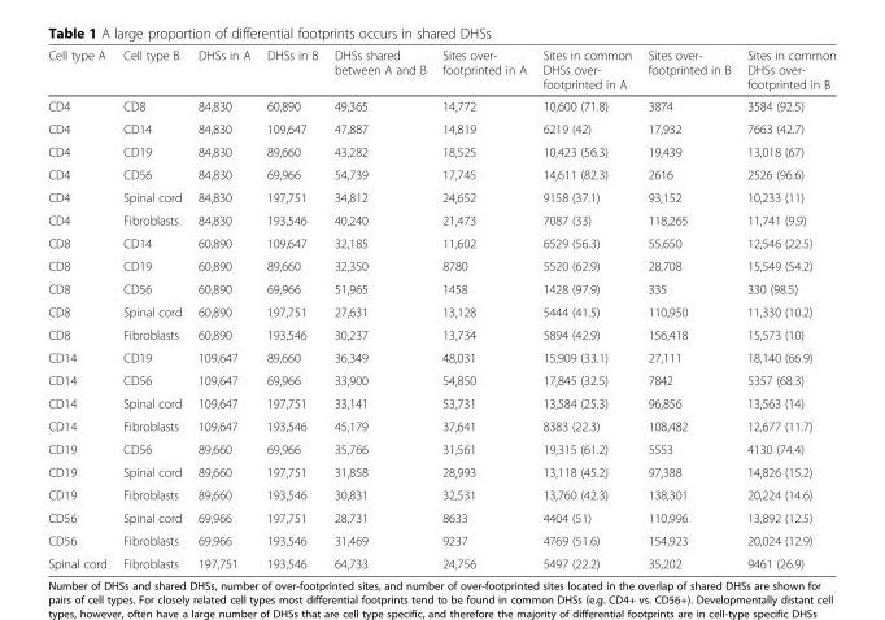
<table><thead><tr><td>Cell type A</td><td>Cell type B</td><td>DHSs in A</td><td>DHSs in B</td><td>DHSs shared between A and B</td><td>Sites over- footprinted in A</td><td>Sites in common DHSs over- footprinted in A</td><td>Sites over- footprinted in B</td><td>Sites in common DHSs over- footprinted in B</td></tr></thead><tbody><tr><td>CD4</td><td>CD8</td><td>84,830</td><td>60,890</td><td>49,365</td><td>14,772</td><td>10,600 (71.8)</td><td>3874</td><td>3584 (92.5)</td></tr><tr><td>CD4</td><td>CD14</td><td>84,830</td><td>109,647</td><td>47,887</td><td>14,819</td><td>6219 (42)</td><td>17,932</td><td>7663 (42.7)</td></tr><tr><td>CD4</td><td>CD19</td><td>84,830</td><td>89,660</td><td>43,282</td><td>18,525</td><td>10,423 (56.3)</td><td>19,439</td><td>13,018 (67)</td></tr><tr><td>CD4</td><td>CD56</td><td>84,830</td><td>69,966</td><td>54,739</td><td>17,745</td><td>14,611 (82.3)</td><td>2616</td><td>2526 (96.6)</td></tr><tr><td>CD4</td><td>Spinal cord</td><td>84,830</td><td>197,751</td><td>34,812</td><td>24,652</td><td>9158 (37.1)</td><td>93,152</td><td>10,233 (11)</td></tr><tr><td>CD4</td><td>Fibroblasts</td><td>84,830</td><td>193,546</td><td>40,240</td><td>21,473</td><td>7087 (33)</td><td>118,265</td><td>11,741 (9.9)</td></tr><tr><td>CD8</td><td>CD14</td><td>60,890</td><td>109,647</td><td>32,185</td><td>11,602</td><td>6529 (56.3)</td><td>55,650</td><td>12,546 (22.5)</td></tr><tr><td>CD8</td><td>CD19</td><td>60,890</td><td>89,660</td><td>32,350</td><td>8780</td><td>5520 (62.9)</td><td>28,708</td><td>15,549 (54.2)</td></tr><tr><td>CD8</td><td>CD56</td><td>60,890</td><td>69,966</td><td>51,965</td><td>1458</td><td>1428 (97.9)</td><td>335</td><td>330 (98.5)</td></tr><tr><td>CD8</td><td>Spinal cord</td><td>60,890</td><td>197,751</td><td>27,631</td><td>13,128</td><td>5444 (41.5)</td><td>110,950</td><td>11,330 (10.2)</td></tr><tr><td>CD8</td><td>Fibroblasts</td><td>60,890</td><td>193,546</td><td>30,237</td><td>13,734</td><td>5894 (42.9)</td><td>156,418</td><td>15,573 (10)</td></tr><tr><td>CD14</td><td>CD19</td><td>109,647</td><td>89,660</td><td>36,349</td><td>48,031</td><td>15,909 (33.1)</td><td>27,111</td><td>18,140 (66.9)</td></tr><tr><td>CD14</td><td>CD56</td><td>109,647</td><td>69,966</td><td>33,900</td><td>54,850</td><td>17,845 (32.5)</td><td>7842</td><td>5357 (68.3)</td></tr><tr><td>CD14</td><td>Spinal cord</td><td>109,647</td><td>197,751</td><td>33,141</td><td>53,731</td><td>13,584 (25.3)</td><td>96,856</td><td>13,563 (14)</td></tr><tr><td>CD14</td><td>Fibroblasts</td><td>109,647</td><td>193,546</td><td>45,179</td><td>37,641</td><td>8383 (22.3)</td><td>108,482</td><td>12,677 (11.7)</td></tr><tr><td>CD19</td><td>CD56</td><td>89,660</td><td>69,966</td><td>35,766</td><td>31,561</td><td>19,315 (61.2)</td><td>5553</td><td>4130 (74.4)</td></tr><tr><td>CD19</td><td>Spinal cord</td><td>89,660</td><td>197,751</td><td>31,858</td><td>28,993</td><td>13,118 (45.2)</td><td>97,388</td><td>14,826 (15.2)</td></tr><tr><td>CD19</td><td>Fibroblasts</td><td>89,660</td><td>193,546</td><td>30,831</td><td>32,531</td><td>13,760 (42.3)</td><td>138,301</td><td>20,224 (14.6)</td></tr><tr><td>CD56</td><td>Spinal cord</td><td>69,966</td><td>197,751</td><td>28,731</td><td>8633</td><td>4404 (51)</td><td>110,996</td><td>13,892 (12.5)</td></tr><tr><td>CD56</td><td>Fibroblasts</td><td>69,966</td><td>193,546</td><td>31,469</td><td>9237</td><td>4769 (51.6)</td><td>154,923</td><td>20,024 (12.9)</td></tr><tr><td>Spinal cord</td><td>Fibroblasts</td><td>197,751</td><td>193,546</td><td>64,733</td><td>24,756</td><td>5497 (22.2)</td><td>35,202</td><td>9461 (26.9)</td></tr></tbody></table>